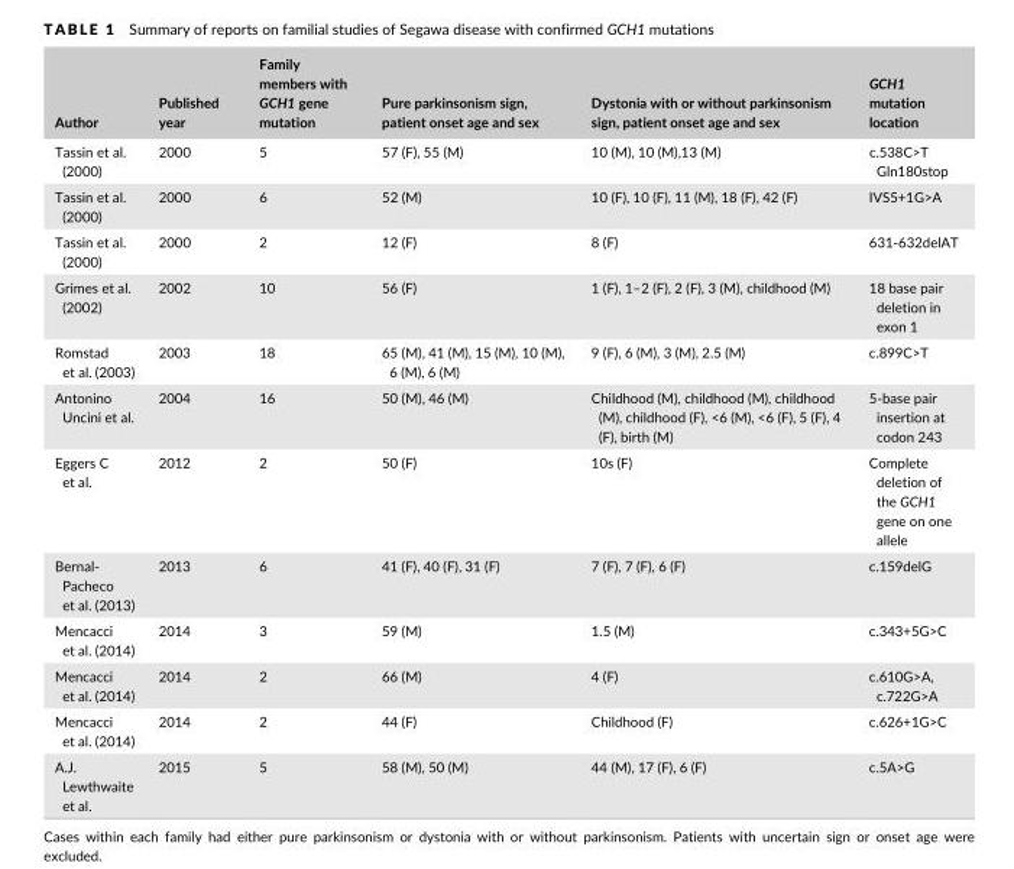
<table><thead><tr><td>Author</td><td>Published year</td><td>Family members with GCH1 gene mutation</td><td>Pure parkinsonism sign, patient onset age and sex</td><td>Dystonia with or without parkinsonism sign, patient onset age and sex</td><td>GCH1 mutation location</td></tr></thead><tbody><tr><td>Tassin et al. (2000)</td><td>2000</td><td>5</td><td>57 (F), 55 (M)</td><td>10 (M), 10 (M),13 (M)</td><td>c.538C&gt;T Gln180stop</td></tr><tr><td>Tassin et al. (2000)</td><td>2000</td><td>6</td><td>52 (M)</td><td>10 (F), 10 (F), 11 (M), 18 (F), 42 (F)</td><td>IVS5+1G&gt;A</td></tr><tr><td>Tassin et al. (2000)</td><td>2000</td><td>2</td><td>12 (F)</td><td>8 (F)</td><td>631- 632delAT</td></tr><tr><td>Grimes et al. (2002)</td><td>2002</td><td>10</td><td>56 (F)</td><td>1 (F), 1–2 (F), 2 (F), 3 (M), childhood (M)</td><td>18 base pair deletion in exon 1</td></tr><tr><td>Romstad et al. (2003)</td><td>2003</td><td>18</td><td>65 (M), 41 (M), 15 (M), 10 (M), 6 (M), 6 (M)</td><td>9 (F), 6 (M), 3 (M), 2.5 (M)</td><td>c.899C&gt;T</td></tr><tr><td>Antonino Uncini et al.</td><td>2004</td><td>16</td><td>50 (M), 46 (M)</td><td>Childhood (M), childhood (M), childhood (M), childhood (F), &lt;6 (M), &lt;6 (F), 5 (F), 4 (F), birth (M)</td><td>5- base pair insertion at codon 243</td></tr><tr><td>Eggers C et al.</td><td>2012</td><td>2</td><td>50 (F)</td><td>10s (F)</td><td>Complete deletion of the GCH1 gene on one allele</td></tr><tr><td>Bernal- Pacheco et al. (2013)</td><td>2013</td><td>6</td><td>41 (F), 40 (F), 31 (F)</td><td>7 (F), 7 (F), 6 (F)</td><td>c.159delG</td></tr><tr><td>Mencacci et al. (2014)</td><td>2014</td><td>3</td><td>59 (M)</td><td>1.5 (M)</td><td>c.343+5G&gt;C</td></tr><tr><td>Mencacci et al. (2014)</td><td>2014</td><td>2</td><td>66 (M)</td><td>4 (F)</td><td>c.610G&gt;A, c.722G&gt;A</td></tr><tr><td>Mencacci et al. (2014)</td><td>2014</td><td>2</td><td>44 (F)</td><td>Childhood (F)</td><td>c.626+1G&gt;C</td></tr><tr><td>A.J. Lewthwaite et al.</td><td>2015</td><td>5</td><td>58 (M), 50 (M)</td><td>44 (M), 17 (F), 6 (F)</td><td>c.5A&gt;G</td></tr></tbody></table>